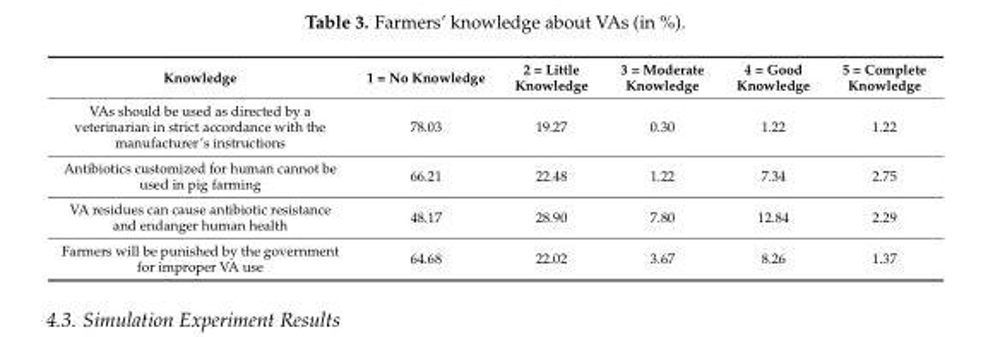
<table><thead><tr><td>Knowledge</td><td>1 = No Knowledge</td><td>2 = Little Knowledge</td><td>3 = Moderate Knowledge</td><td>4 = Good Knowledge</td><td>5 = Complete Knowledge</td></tr></thead><tbody><tr><td>VAs should be used as directed by a veterinarian in strict accordance with the manufacturer’s instructions</td><td>78.03</td><td>19.27</td><td>0.30</td><td>1.22</td><td>1.22</td></tr><tr><td>Antibiotics customized for human cannot be used in pig farming</td><td>66.21</td><td>22.48</td><td>1.22</td><td>7.34</td><td>2.75</td></tr><tr><td>VA residues can cause antibiotic resistance and endanger human health</td><td>48.17</td><td>28.90</td><td>7.80</td><td>12.84</td><td>2.29</td></tr><tr><td>Farmers will be punished by the government for improper VA use</td><td>64.68</td><td>22.02</td><td>3.67</td><td>8.26</td><td>1.37</td></tr></tbody></table>